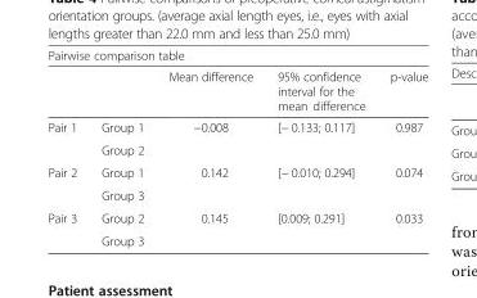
<table><thead><tr><td colspan="5">Pairwise comparison table</td></tr><tr><td></td><td></td><td>Mean difference</td><td>95% confidence interval for the mean difference</td><td>p-value</td></tr></thead><tbody><tr><td rowspan="2">Pair 1</td><td>Group 1</td><td rowspan="2">−0.008</td><td rowspan="2">[− 0.133; 0.117]</td><td rowspan="2">0.987</td></tr><tr><td>Group 2</td></tr><tr><td rowspan="2">Pair 2</td><td>Group 1</td><td rowspan="2">0.142</td><td rowspan="2">[− 0.010; 0.294]</td><td rowspan="2">0.074</td></tr><tr><td>Group 3</td></tr><tr><td rowspan="2">Pair 3</td><td>Group 2</td><td rowspan="2">0.145</td><td rowspan="2">[0.009; 0.291]</td><td rowspan="2">0.033</td></tr><tr><td>Group 3</td></tr></tbody></table>